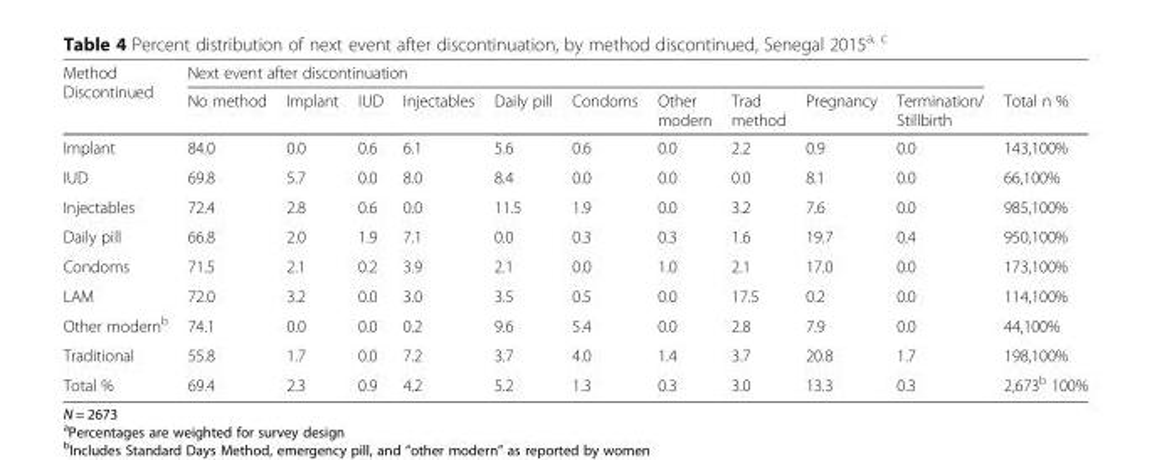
<table><thead><tr><td rowspan="2">Method Discontinued</td><td colspan="10">Next event after discontinuation</td><td rowspan="2">Total n %</td></tr><tr><td>No method</td><td>Implant</td><td>IUD</td><td>Injectables</td><td>Daily pill</td><td>Condoms</td><td>Other modern</td><td>Trad method</td><td>Pregnancy</td><td>Termination/ Stillbirth</td></tr></thead><tbody><tr><td>Implant</td><td>84.0</td><td>0.0</td><td>0.6</td><td>6.1</td><td>5.6</td><td>0.6</td><td>0.0</td><td>2.2</td><td>0.9</td><td>0.0</td><td>143,100%</td></tr><tr><td>IUD</td><td>69.8</td><td>5.7</td><td>0.0</td><td>8.0</td><td>8.4</td><td>0.0</td><td>0.0</td><td>0.0</td><td>8.1</td><td>0.0</td><td>66,100%</td></tr><tr><td>Injectables</td><td>72.4</td><td>2.8</td><td>0.6</td><td>0.0</td><td>11.5</td><td>1.9</td><td>0.0</td><td>3.2</td><td>7.6</td><td>0.0</td><td>985,100%</td></tr><tr><td>Daily pill</td><td>66.8</td><td>2.0</td><td>1.9</td><td>7.1</td><td>0.0</td><td>0.3</td><td>0.3</td><td>1.6</td><td>19.7</td><td>0.4</td><td>950,100%</td></tr><tr><td>Condoms</td><td>71.5</td><td>2.1</td><td>0.2</td><td>3.9</td><td>2.1</td><td>0.0</td><td>1.0</td><td>2.1</td><td>17.0</td><td>0.0</td><td>173,100%</td></tr><tr><td>LAM</td><td>72.0</td><td>3.2</td><td>0.0</td><td>3.0</td><td>3.5</td><td>0.5</td><td>0.0</td><td>17.5</td><td>0.2</td><td>0.0</td><td>114,100%</td></tr><tr><td>Other modern<sup>b</sup></td><td>74.1</td><td>0.0</td><td>0.0</td><td>0.2</td><td>9.6</td><td>5.4</td><td>0.0</td><td>2.8</td><td>7.9</td><td>0.0</td><td>44,100%</td></tr><tr><td>Traditional</td><td>55.8</td><td>1.7</td><td>0.0</td><td>7.2</td><td>3.7</td><td>4.0</td><td>1.4</td><td>3.7</td><td>20.8</td><td>1.7</td><td>198,100%</td></tr><tr><td>Total %</td><td>69.4</td><td>2.3</td><td>0.9</td><td>4.2</td><td>5.2</td><td>1.3</td><td>0.3</td><td>3.0</td><td>13.3</td><td>0.3</td><td>2,673<sup>b</sup> 100%</td></tr></tbody></table>